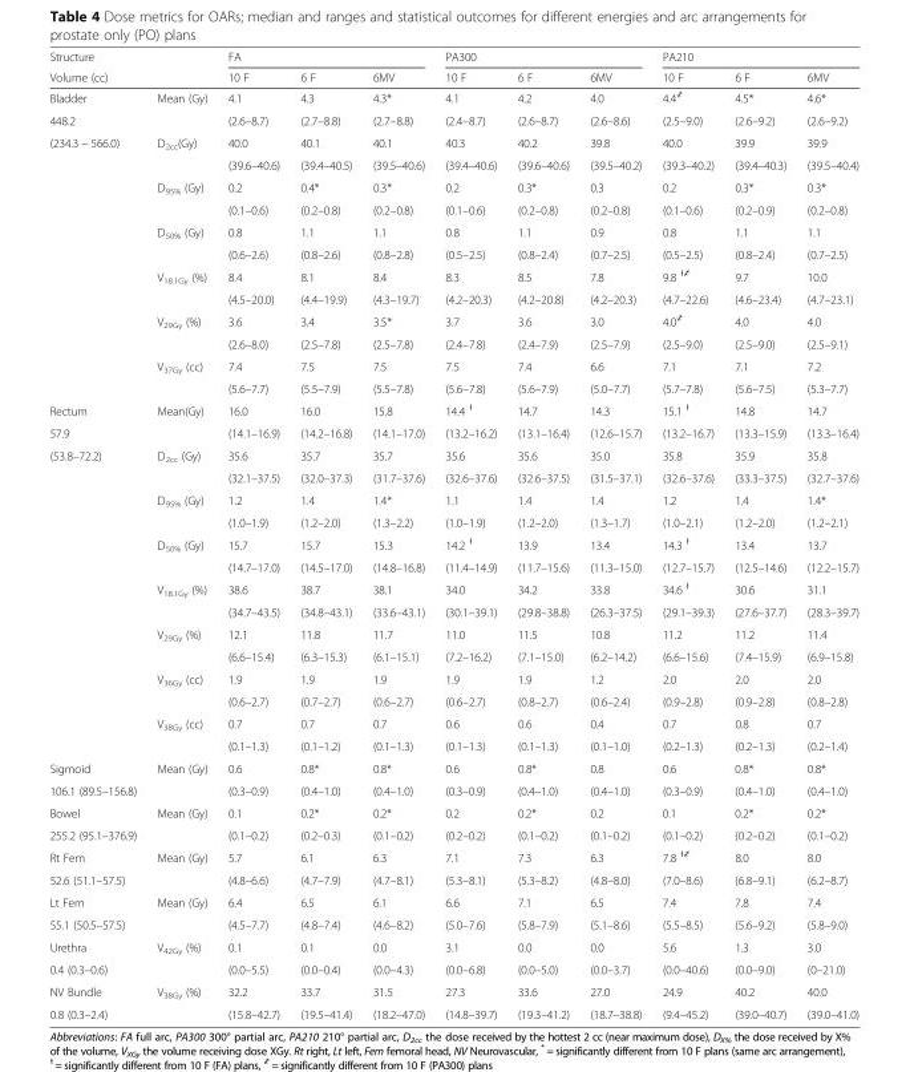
<table><thead><tr><td rowspan="2">Structure Volume (cc)</td><td rowspan="2"></td><td colspan="3">FA</td><td colspan="3">PA300</td><td colspan="3">PA210</td></tr><tr><td>10 F</td><td>6 F</td><td>6MV</td><td>10 F</td><td>6 F</td><td>6MV</td><td>10 F</td><td>6 F</td><td>6MV</td></tr></thead><tbody><tr><td>Bladder</td><td>Mean (Gy)</td><td>4.1</td><td>4.3</td><td>4.3*</td><td>4.1</td><td>4.2</td><td>4.0</td><td>4.4<sup>҂</sup></td><td>4.5*</td><td>4.6*</td></tr><tr><td>448.2</td><td></td><td>(2.6–8.7)</td><td>(2.7–8.8)</td><td>(2.7–8.8)</td><td>(2.4–8.7)</td><td>(2.6–8.7)</td><td>(2.6–8.6)</td><td>(2.5–9.0)</td><td>(2.6–9.2)</td><td>(2.6–9.2)</td></tr><tr><td rowspan="12">(234.3 − 566.0)</td><td>D<sub>2cc</sub>(Gy)</td><td>40.0</td><td>40.1</td><td>40.1</td><td>40.3</td><td>40.2</td><td>39.8</td><td>40.0</td><td>39.9</td><td>39.9</td></tr><tr><td></td><td>(39.6–40.6)</td><td>(39.4–40.5)</td><td>(39.5–40.6)</td><td>(39.4–40.6)</td><td>(39.6–40.6)</td><td>(39.5–40.2)</td><td>(39.3–40.2)</td><td>(39.4–40.3)</td><td>(39.5–40.4)</td></tr><tr><td>D<sub>95%</sub> (Gy)</td><td>0.2</td><td>0.4*</td><td>0.3*</td><td>0.2</td><td>0.3*</td><td>0.3</td><td>0.2</td><td>0.3*</td><td>0.3*</td></tr><tr><td></td><td>(0.1–0.6)</td><td>(0.2–0.8)</td><td>(0.2–0.8)</td><td>(0.1–0.6)</td><td>(0.2–0.8)</td><td>(0.2–0.8)</td><td>(0.1–0.6)</td><td>(0.2–0.9)</td><td>(0.2–0.8)</td></tr><tr><td>D<sub>50%</sub> (Gy)</td><td>0.8</td><td>1.1</td><td>1.1</td><td>0.8</td><td>1.1</td><td>0.9</td><td>0.8</td><td>1.1</td><td>1.1</td></tr><tr><td></td><td>(0.6–2.6)</td><td>(0.8–2.6)</td><td>(0.8–2.8)</td><td>(0.5–2.5)</td><td>(0.8–2.4)</td><td>(0.7–2.5)</td><td>(0.5–2.5)</td><td>(0.8–2.4)</td><td>(0.7–2.5)</td></tr><tr><td>V<sub>18.1Gy</sub> (%)</td><td>8.4</td><td>8.1</td><td>8.4</td><td>8.3</td><td>8.5</td><td>7.8</td><td>9.8 <sup>ɫ҂</sup></td><td>9.7</td><td>10.0</td></tr><tr><td></td><td>(4.5–20.0)</td><td>(4.4–19.9)</td><td>(4.3–19.7)</td><td>(4.2–20.3)</td><td>(4.2–20.8)</td><td>(4.2–20.3)</td><td>(4.7–22.6)</td><td>(4.6–23.4)</td><td>(4.7–23.1)</td></tr><tr><td>V<sub>29Gy</sub> (%)</td><td>3.6</td><td>3.4</td><td>3.5*</td><td>3.7</td><td>3.6</td><td>3.0</td><td>4.0<sup>҂</sup></td><td>4.0</td><td>4.0</td></tr><tr><td></td><td>(2.6–8.0)</td><td>(2.5–7.8)</td><td>(2.5–7.8)</td><td>(2.4–7.8)</td><td>(2.4–7.9)</td><td>(2.5–7.9)</td><td>(2.5–9.0)</td><td>(2.5–9.0)</td><td>(2.5–9.1)</td></tr><tr><td>V<sub>37Gy</sub> (cc)</td><td>7.4</td><td>7.5</td><td>7.5</td><td>7.5</td><td>7.4</td><td>6.6</td><td>7.1</td><td>7.1</td><td>7.2</td></tr><tr><td></td><td>(5.6–7.7)</td><td>(5.5–7.9)</td><td>(5.5–7.8)</td><td>(5.6–7.8)</td><td>(5.6–7.9)</td><td>(5.0–7.7)</td><td>(5.7–7.8)</td><td>(5.6–7.5)</td><td>(5.3–7.7)</td></tr><tr><td>Rectum</td><td>Mean(Gy)</td><td>16.0</td><td>16.0</td><td>15.8</td><td>14.4 <sup>ɫ</sup></td><td>14.7</td><td>14.3</td><td>15.1 <sup>ɫ</sup></td><td>14.8</td><td>14.7</td></tr><tr><td>57.9</td><td></td><td>(14.1–16.9)</td><td>(14.2–16.8)</td><td>(14.1–17.0)</td><td>(13.2–16.2)</td><td>(13.1–16.4)</td><td>(12.6–15.7)</td><td>(13.2–16.7)</td><td>(13.3–15.9)</td><td>(13.3–16.4)</td></tr><tr><td rowspan="14">(53.8–72.2)</td><td>D<sub>2cc</sub> (Gy)</td><td>35.6</td><td>35.7</td><td>35.7</td><td>35.6</td><td>35.6</td><td>35.0</td><td>35.8</td><td>35.9</td><td>35.8</td></tr><tr><td></td><td>(32.1–37.5)</td><td>(32.0–37.3)</td><td>(31.7–37.6)</td><td>(32.6–37.6)</td><td>(32.6–37.5)</td><td>(31.5–37.1)</td><td>(32.6–37.6)</td><td>(33.3–37.5)</td><td>(32.7–37.6)</td></tr><tr><td>D<sub>95%</sub> (Gy)</td><td>1.2</td><td>1.4</td><td>1.4*</td><td>1.1</td><td>1.4</td><td>1.4</td><td>1.2</td><td>1.4</td><td>1.4*</td></tr><tr><td></td><td>(1.0–1.9)</td><td>(1.2–2.0)</td><td>(1.3–2.2)</td><td>(1.0–1.9)</td><td>(1.2–2.0)</td><td>(1.3–1.7)</td><td>(1.0–2.1)</td><td>(1.2–2.0)</td><td>(1.2–2.1)</td></tr><tr><td>D<sub>50%</sub> (Gy)</td><td>15.7</td><td>15.7</td><td>15.3</td><td>14.2 <sup>ɫ</sup></td><td>13.9</td><td>13.4</td><td>14.3 <sup>ɫ</sup></td><td>13.4</td><td>13.7</td></tr><tr><td></td><td>(14.7–17.0)</td><td>(14.5–17.0)</td><td>(14.8–16.8)</td><td>(11.4–14.9)</td><td>(11.7–15.6)</td><td>(11.3–15.0)</td><td>(12.7–15.7)</td><td>(12.5–14.6)</td><td>(12.2–15.7)</td></tr><tr><td>V<sub>18.1Gy</sub> (%)</td><td>38.6</td><td>38.7</td><td>38.1</td><td>34.0</td><td>34.2</td><td>33.8</td><td>34.6 <sup>ɫ</sup></td><td>30.6</td><td>31.1</td></tr><tr><td></td><td>(34.7–43.5)</td><td>(34.8–43.1)</td><td>(33.6–43.1)</td><td>(30.1–39.1)</td><td>(29.8–38.8)</td><td>(26.3–37.5)</td><td>(29.1–39.3)</td><td>(27.6–37.7)</td><td>(28.3–39.7)</td></tr><tr><td>V<sub>29Gy</sub> (%)</td><td>12.1</td><td>11.8</td><td>11.7</td><td>11.0</td><td>11.5</td><td>10.8</td><td>11.2</td><td>11.2</td><td>11.4</td></tr><tr><td></td><td>(6.6–15.4)</td><td>(6.3–15.3)</td><td>(6.1–15.1)</td><td>(7.2–16.2)</td><td>(7.1–15.0)</td><td>(6.2–14.2)</td><td>(6.6–15.6)</td><td>(7.4–15.9)</td><td>(6.9–15.8)</td></tr><tr><td>V<sub>36Gy</sub> (cc)</td><td>1.9</td><td>1.9</td><td>1.9</td><td>1.9</td><td>1.9</td><td>1.2</td><td>2.0</td><td>2.0</td><td>2.0</td></tr><tr><td></td><td>(0.6–2.7)</td><td>(0.7–2.7)</td><td>(0.6–2.7)</td><td>(0.6–2.7)</td><td>(0.8–2.7)</td><td>(0.6–2.4)</td><td>(0.9–2.8)</td><td>(0.9–2.8)</td><td>(0.8–2.8)</td></tr><tr><td>V<sub>38Gy</sub> (cc)</td><td>0.7</td><td>0.7</td><td>0.7</td><td>0.6</td><td>0.6</td><td>0.4</td><td>0.7</td><td>0.8</td><td>0.7</td></tr><tr><td></td><td>(0.1–1.3)</td><td>(0.1–1.2)</td><td>(0.1–1.3)</td><td>(0.1–1.3)</td><td>(0.1–1.3)</td><td>(0.1–1.0)</td><td>(0.2–1.3)</td><td>(0.2–1.3)</td><td>(0.2–1.4)</td></tr><tr><td>Sigmoid</td><td>Mean (Gy)</td><td>0.6</td><td>0.8*</td><td>0.8*</td><td>0.6</td><td>0.8*</td><td>0.8</td><td>0.6</td><td>0.8*</td><td>0.8*</td></tr><tr><td>106.1 (89.5–156.8)</td><td></td><td>(0.3–0.9)</td><td>(0.4–1.0)</td><td>(0.4–1.0)</td><td>(0.3–0.9)</td><td>(0.4–1.0)</td><td>(0.4–1.0)</td><td>(0.3–0.9)</td><td>(0.4–1.0)</td><td>(0.4–1.0)</td></tr><tr><td>Bowel</td><td>Mean (Gy)</td><td>0.1</td><td>0.2*</td><td>0.2*</td><td>0.2</td><td>0.2*</td><td>0.2</td><td>0.1</td><td>0.2*</td><td>0.2*</td></tr><tr><td>255.2 (95.1–376.9)</td><td></td><td>(0.1–0.2)</td><td>(0.2–0.3)</td><td>(0.1–0.2)</td><td>(0.2–0.2)</td><td>(0.1–0.2)</td><td>(0.1–0.2)</td><td>(0.1–0.2)</td><td>(0.2–0.2)</td><td>(0.1–0.2)</td></tr><tr><td>Rt Fem</td><td>Mean (Gy)</td><td>5.7</td><td>6.1</td><td>6.3</td><td>7.1</td><td>7.3</td><td>6.3</td><td>7.8 <sup>ɫ҂</sup></td><td>8.0</td><td>8.0</td></tr><tr><td>52.6 (51.1–57.5)</td><td></td><td>(4.8–6.6)</td><td>(4.7–7.9)</td><td>(4.7–8.1)</td><td>(5.3–8.1)</td><td>(5.3–8.2)</td><td>(4.8–8.0)</td><td>(7.0–8.6)</td><td>(6.8–9.1)</td><td>(6.2–8.7)</td></tr><tr><td>Lt Fem</td><td>Mean (Gy)</td><td>6.4</td><td>6.5</td><td>6.1</td><td>6.6</td><td>7.1</td><td>6.5</td><td>7.4</td><td>7.8</td><td>7.4</td></tr><tr><td>55.1 (50.5–57.5)</td><td></td><td>(4.5–7.7)</td><td>(4.8–7.4)</td><td>(4.6–8.2)</td><td>(5.0–7.6)</td><td>(5.8–7.9)</td><td>(5.1–8.6)</td><td>(5.5–8.5)</td><td>(5.6–9.2)</td><td>(5.8–9.0)</td></tr><tr><td>Urethra</td><td>V<sub>42Gy</sub> (%)</td><td>0.1</td><td>0.1</td><td>0.0</td><td>3.1</td><td>0.0</td><td>0.0</td><td>5.6</td><td>1.3</td><td>3.0</td></tr><tr><td>0.4 (0.3–0.6)</td><td></td><td>(0.0–5.5)</td><td>(0.0–0.4)</td><td>(0.0–4.3)</td><td>(0.0–6.8)</td><td>(0.0–5.0)</td><td>(0.0–3.7)</td><td>(0.0–40.6)</td><td>(0.0–9.0)</td><td>(0–21.0)</td></tr><tr><td>NV Bundle</td><td>V<sub>38Gy</sub> (%)</td><td>32.2</td><td>33.7</td><td>31.5</td><td>27.3</td><td>33.6</td><td>27.0</td><td>24.9</td><td>40.2</td><td>40.0</td></tr><tr><td>0.8 (0.3–2.4)</td><td></td><td>(15.8–42.7)</td><td>(19.5–41.4)</td><td>(18.2–47.0)</td><td>(14.8–39.7)</td><td>(19.3–41.2)</td><td>(18.7–38.8)</td><td>(9.4–45.2)</td><td>(39.0–40.7)</td><td>(39.0–41.0)</td></tr></tbody></table>